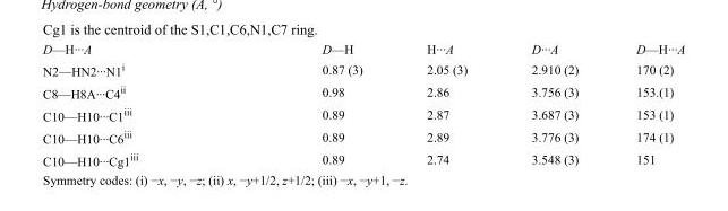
<table><tbody><tr><td>D—H···A</td><td>D—H</td><td>H···A</td><td>D···A</td><td>D—H···A</td></tr><tr><td>N2—HN2···N1<sup>i</sup></td><td>0.87 (3)</td><td>2.05 (3)</td><td>2.910 (2)</td><td>170 (2)</td></tr><tr><td>C8—H8A···C4<sup>ii</sup></td><td>0.98</td><td>2.86</td><td>3.756 (3)</td><td>153.(1)</td></tr><tr><td>C10—H10···C1<sup>iii</sup></td><td>0.89</td><td>2.87</td><td>3.687 (3)</td><td>153 (1)</td></tr><tr><td>C10—H10···C6<sup>iii</sup></td><td>0.89</td><td>2.89</td><td>3.776 (3)</td><td>174 (1)</td></tr><tr><td>C10—H10···Cg1<sup>iii</sup></td><td>0.89</td><td>2.74</td><td>3.548 (3)</td><td>151</td></tr></tbody></table>